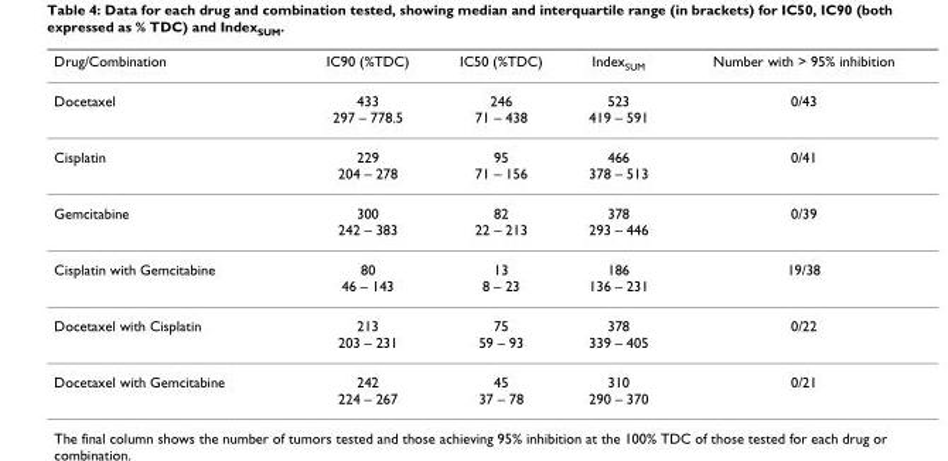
<table><thead><tr><td>Drug/Combination</td><td>IC90 (%TDC)</td><td>IC50 (%TDC)</td><td>Index<sub>SUM</sub></td><td>Number with &gt; 95% inhibition</td></tr></thead><tbody><tr><td>Docetaxel</td><td>433 297 – 778.5</td><td>246 71 – 438</td><td>523 419 – 591</td><td>0/43</td></tr><tr><td>Cisplatin</td><td>229 204 – 278</td><td>95 71 – 156</td><td>466 378 – 513</td><td>0/41</td></tr><tr><td>Gemcitabine</td><td>300 242 – 383</td><td>82 22 – 213</td><td>378 293 – 446</td><td>0/39</td></tr><tr><td>Cisplatin with Gemcitabine</td><td>80 46 – 143</td><td>13 8 – 23</td><td>186 136 – 231</td><td>19/38</td></tr><tr><td>Docetaxel with Cisplatin</td><td>213 203 – 231</td><td>75 59 – 93</td><td>378 339 – 405</td><td>0/22</td></tr><tr><td>Docetaxel with Gemcitabine</td><td>242 224 – 267</td><td>45 37 – 78</td><td>310 290 – 370</td><td>0/21</td></tr></tbody></table>